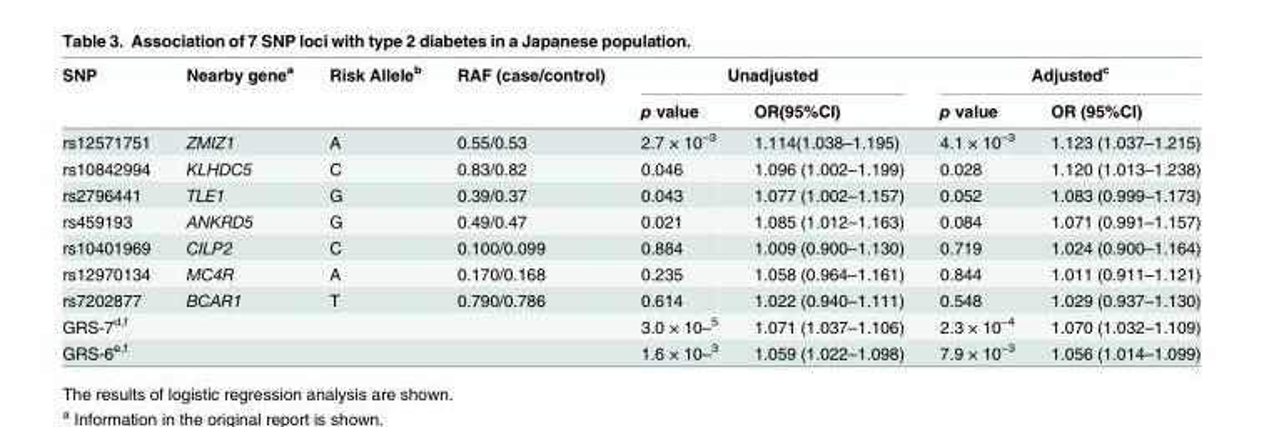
<table><thead><tr><td rowspan="2">SNP</td><td rowspan="2">Nearby gene<sup>a</sup></td><td rowspan="2">Risk Allele<sup>b</sup></td><td rowspan="2">RAF (case/control)</td><td colspan="2">Unadjusted</td><td colspan="2">Adjusted<sup>c</sup></td></tr><tr><td>p value</td><td>OR(95%CI)</td><td>p value</td><td>OR (95%CI)</td></tr></thead><tbody><tr><td>rs12571751</td><td>ZMIZ1</td><td>A</td><td>0.55/0.53</td><td>2.7 × 10<sup>–3</sup></td><td>1.114(1.038–1.195)</td><td>4.1 × 10<sup>–3</sup></td><td>1.123 (1.037–1.215)</td></tr><tr><td>rs10842994</td><td>KLHDC5</td><td>C</td><td>0.83/0.82</td><td>0.046</td><td>1.096 (1.002–1.199)</td><td>0.028</td><td>1.120 (1.013–1.238)</td></tr><tr><td>rs2796441</td><td>TLE1</td><td>G</td><td>0.39/0.37</td><td>0.043</td><td>1.077 (1.002–1.157)</td><td>0.052</td><td>1.083 (0.999–1.173)</td></tr><tr><td>rs459193</td><td>ANKRD5</td><td>G</td><td>0.49/0.47</td><td>0.021</td><td>1.085 (1.012–1.163)</td><td>0.084</td><td>1.071 (0.991–1.157)</td></tr><tr><td>rs10401969</td><td>CILP2</td><td>C</td><td>0.100/0.099</td><td>0.884</td><td>1.009 (0.900–1.130)</td><td>0.719</td><td>1.024 (0.900–1.164)</td></tr><tr><td>rs12970134</td><td>MC4R</td><td>A</td><td>0.170/0.168</td><td>0.235</td><td>1.058 (0.964–1.161)</td><td>0.844</td><td>1.011 (0.911–1.121)</td></tr><tr><td>rs7202877</td><td>BCAR1</td><td>T</td><td>0.790/0.786</td><td>0.614</td><td>1.022 (0.940–1.111)</td><td>0.548</td><td>1.029 (0.937–1.130)</td></tr><tr><td>GRS-7<sup>d,f</sup></td><td></td><td></td><td></td><td>3.0 × 10–<sup>5</sup></td><td>1.071 (1.037–1.106)</td><td>2.3 × 10<sup>–4</sup></td><td>1.070 (1.032–1.109)</td></tr><tr><td>GRS-6<sup>e,f</sup></td><td></td><td></td><td></td><td>1.6 × 10–<sup>3</sup></td><td>1.059 (1.022–1.098)</td><td>7.9 × 10<sup>–3</sup></td><td>1.056 (1.014–1.099)</td></tr></tbody></table>